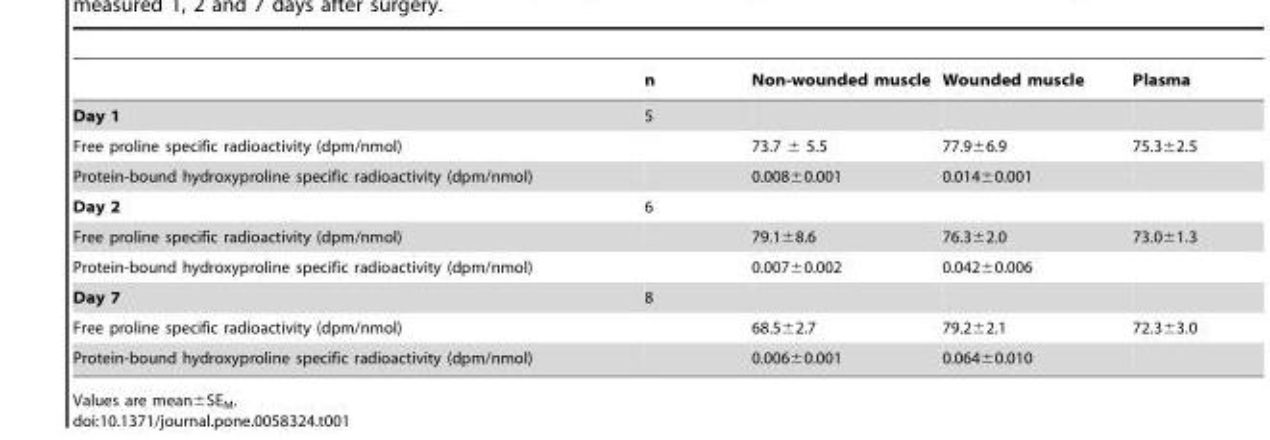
<table><thead><tr><td></td><td>n</td><td>Non-wounded muscle</td><td>Wounded muscle</td><td>Plasma</td></tr></thead><tbody><tr><td>Day 1</td><td>5</td><td></td><td></td><td></td></tr><tr><td>Free proline specific radioactivity (dpm/nmol)</td><td></td><td>73.7 ± 5.5</td><td>77.9±6.9</td><td>75.3±2.5</td></tr><tr><td>Protein-bound hydroxyproline specific radioactivity (dpm/nmol)</td><td></td><td>0.008±0.001</td><td>0.014±0.001</td><td></td></tr><tr><td>Day 2</td><td>6</td><td></td><td></td><td></td></tr><tr><td>Free proline specific radioactivity (dpm/nmol)</td><td></td><td>79.1±8.6</td><td>76.3±2.0</td><td>73.0±1.3</td></tr><tr><td>Protein-bound hydroxyproline specific radioactivity (dpm/nmol)</td><td></td><td>0.007±0.002</td><td>0.042±0.006</td><td></td></tr><tr><td>Day 7</td><td>8</td><td></td><td></td><td></td></tr><tr><td>Free proline specific radioactivity (dpm/nmol)</td><td></td><td>68.5±2.7</td><td>79.2±2.1</td><td>72.3±3.0</td></tr><tr><td>Protein-bound hydroxyproline specific radioactivity (dpm/nmol)</td><td></td><td>0.006±0.001</td><td>0.064±0.010</td><td></td></tr></tbody></table>